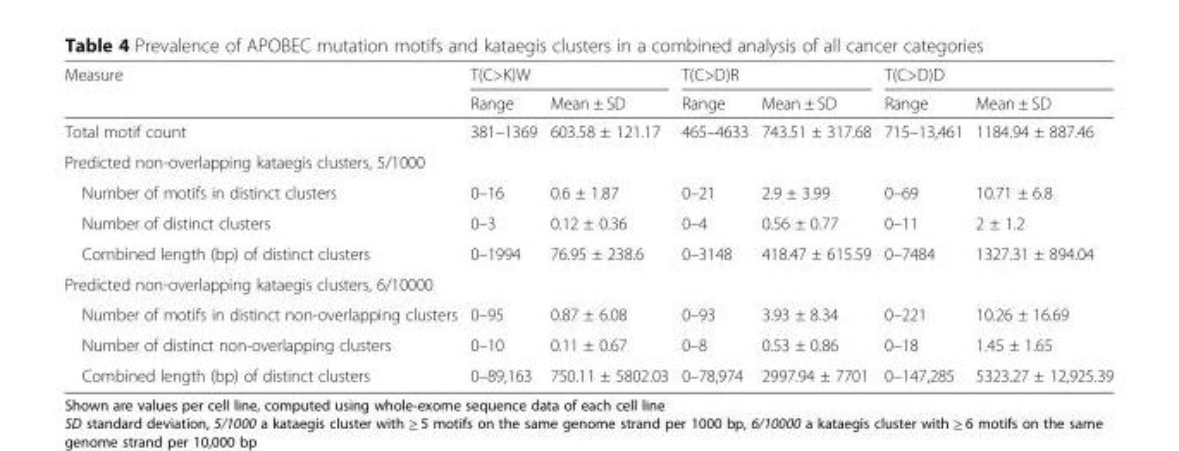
<table><thead><tr><td rowspan="2">Measure</td><td colspan="2">T(C&gt;K)W</td><td colspan="2">T(C&gt;D)R</td><td colspan="2">T(C&gt;D)D</td></tr><tr><td>Range</td><td>Mean ± SD</td><td>Range</td><td>Mean ± SD</td><td>Range</td><td>Mean ± SD</td></tr></thead><tbody><tr><td>Total motif count</td><td>381–1369</td><td>603.58 ± 121.17</td><td>465–4633</td><td>743.51 ± 317.68</td><td>715–13,461</td><td>1184.94 ± 887.46</td></tr><tr><td colspan="7">Predicted non-overlapping kataegis clusters, 5/1000</td></tr><tr><td>Number of motifs in distinct clusters</td><td>0–16</td><td>0.6 ± 1.87</td><td>0–21</td><td>2.9 ± 3.99</td><td>0–69</td><td>10.71 ± 6.8</td></tr><tr><td>Number of distinct clusters</td><td>0–3</td><td>0.12 ± 0.36</td><td>0–4</td><td>0.56 ± 0.77</td><td>0–11</td><td>2 ± 1.2</td></tr><tr><td>Combined length (bp) of distinct clusters</td><td>0–1994</td><td>76.95 ± 238.6</td><td>0–3148</td><td>418.47 ± 615.59</td><td>0–7484</td><td>1327.31 ± 894.04</td></tr><tr><td colspan="7">Predicted non-overlapping kataegis clusters, 6/10000</td></tr><tr><td>Number of motifs in distinct non-overlapping clusters</td><td>0–95</td><td>0.87 ± 6.08</td><td>0–93</td><td>3.93 ± 8.34</td><td>0–221</td><td>10.26 ± 16.69</td></tr><tr><td>Number of distinct non-overlapping clusters</td><td>0–10</td><td>0.11 ± 0.67</td><td>0–8</td><td>0.53 ± 0.86</td><td>0–18</td><td>1.45 ± 1.65</td></tr><tr><td>Combined length (bp) of distinct clusters</td><td>0–89,163</td><td>750.11 ± 5802.03</td><td>0–78,974</td><td>2997.94 ± 7701</td><td>0–147,285</td><td>5323.27 ± 12,925.39</td></tr></tbody></table>